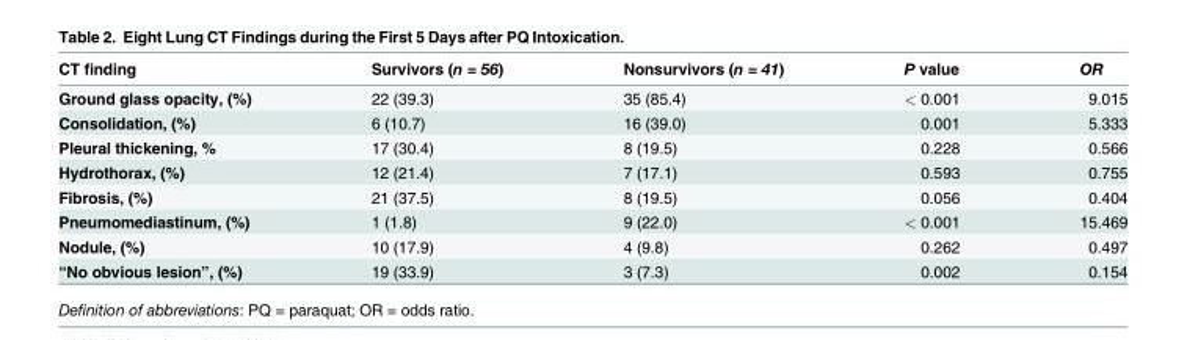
<table><thead><tr><td>CT finding</td><td>Survivors (n = 56)</td><td>Nonsurvivors (n = 41)</td><td>P value</td><td>OR</td></tr></thead><tbody><tr><td>Ground glass opacity, (%)</td><td>22 (39.3)</td><td>35 (85.4)</td><td>&lt; 0.001</td><td>9.015</td></tr><tr><td>Consolidation, (%)</td><td>6 (10.7)</td><td>16 (39.0)</td><td>0.001</td><td>5.333</td></tr><tr><td>Pleural thickening, %</td><td>17 (30.4)</td><td>8 (19.5)</td><td>0.228</td><td>0.566</td></tr><tr><td>Hydrothorax, (%)</td><td>12 (21.4)</td><td>7 (17.1)</td><td>0.593</td><td>0.755</td></tr><tr><td>Fibrosis, (%)</td><td>21 (37.5)</td><td>8 (19.5)</td><td>0.056</td><td>0.404</td></tr><tr><td>Pneumomediastinum, (%)</td><td>1 (1.8)</td><td>9 (22.0)</td><td>&lt; 0.001</td><td>15.469</td></tr><tr><td>Nodule, (%)</td><td>10 (17.9)</td><td>4 (9.8)</td><td>0.262</td><td>0.497</td></tr><tr><td>“No obvious lesion”, (%)</td><td>19 (33.9)</td><td>3 (7.3)</td><td>0.002</td><td>0.154</td></tr></tbody></table>